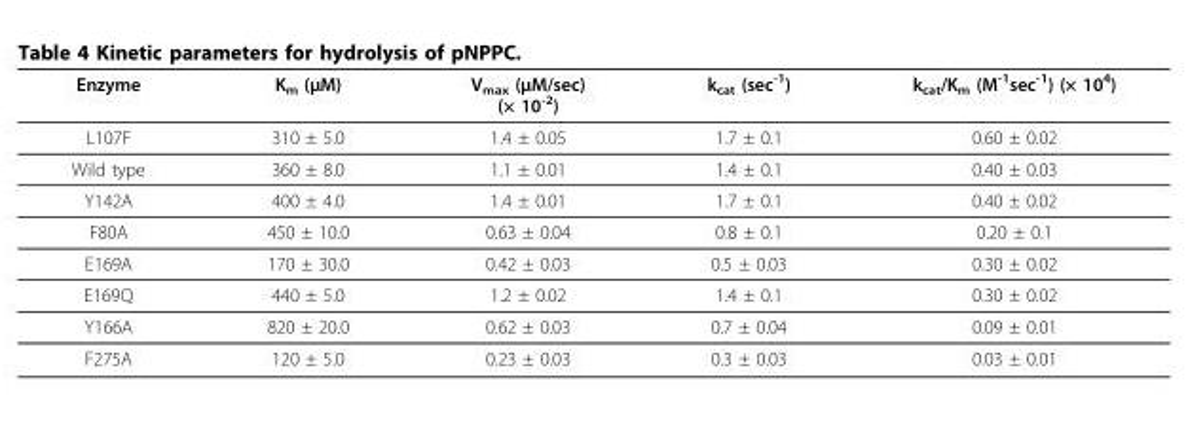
<table><thead><tr><td>Enzyme</td><td>K<sub>m</sub> (μM)</td><td>V<sub>max</sub> (μM/sec) (× 10<sup>-2</sup>)</td><td>k<sub>cat</sub> (sec<sup>-1</sup>)</td><td>k<sub>cat</sub>/K<sub>m</sub> (M<sup>-1</sup>sec<sup>-1</sup>) (× 10<sup>4</sup>)</td></tr></thead><tbody><tr><td>L107F</td><td>310 ± 5.0</td><td>1.4 ± 0.05</td><td>1.7 ± 0.1</td><td>0.60 ± 0.02</td></tr><tr><td>Wild type</td><td>360 ± 8.0</td><td>1.1 ± 0.01</td><td>1.4 ± 0.1</td><td>0.40 ± 0.03</td></tr><tr><td>Y142A</td><td>400 ± 4.0</td><td>1.4 ± 0.01</td><td>1.7 ± 0.1</td><td>0.40 ± 0.02</td></tr><tr><td>F80A</td><td>450 ± 10.0</td><td>0.63 ± 0.04</td><td>0.8 ± 0.1</td><td>0.20 ± 0.1</td></tr><tr><td>E169A</td><td>170 ± 30.0</td><td>0.42 ± 0.03</td><td>0.5 ± 0.03</td><td>0.30 ± 0.02</td></tr><tr><td>E169Q</td><td>440 ± 5.0</td><td>1.2 ± 0.02</td><td>1.4 ± 0.1</td><td>0.30 ± 0.02</td></tr><tr><td>Y166A</td><td>820 ± 20.0</td><td>0.62 ± 0.03</td><td>0.7 ± 0.04</td><td>0.09 ± 0.01</td></tr><tr><td>F275A</td><td>120 ± 5.0</td><td>0.23 ± 0.03</td><td>0.3 ± 0.03</td><td>0.03 ± 0.01</td></tr></tbody></table>